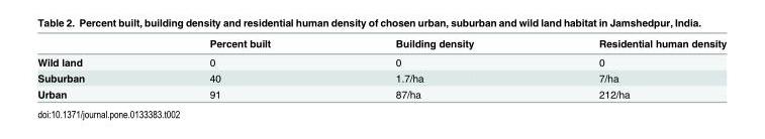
<table><thead><tr><td></td><td>Percent built</td><td>Building density</td><td>Residential human density</td></tr></thead><tbody><tr><td>Wild land</td><td>0</td><td>0</td><td>0</td></tr><tr><td>Suburban</td><td>40</td><td>1.7/ha</td><td>7/ha</td></tr><tr><td>Urban</td><td>91</td><td>87/ha</td><td>212/ha</td></tr></tbody></table>